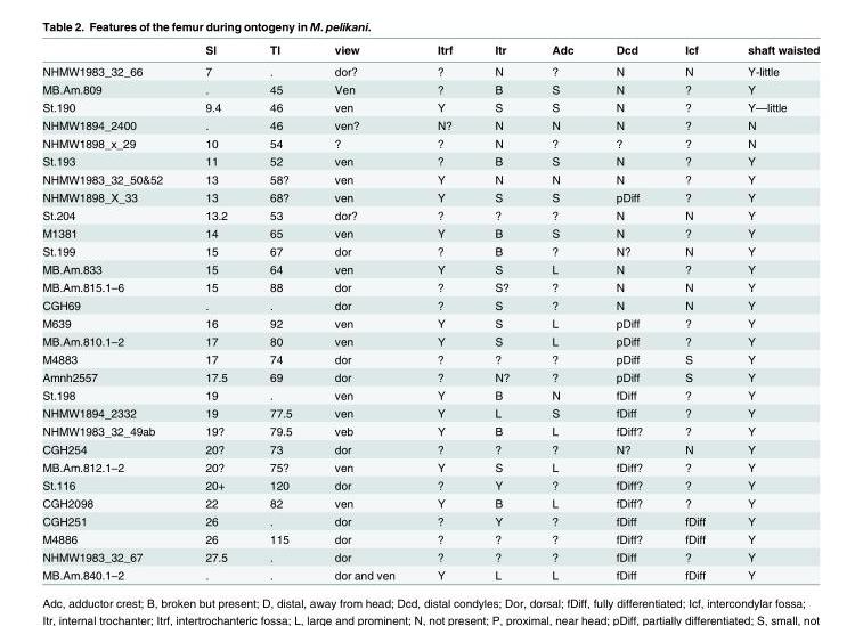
<table><thead><tr><td></td><td>Sl</td><td>Tl</td><td>view</td><td>Itrf</td><td>Itr</td><td>Adc</td><td>Dcd</td><td>Icf</td><td>shaft waisted</td></tr></thead><tbody><tr><td>NHMW1983_32_66</td><td>7</td><td>.</td><td>dor?</td><td>?</td><td>N</td><td>?</td><td>N</td><td>N</td><td>Y-little</td></tr><tr><td>MB.Am.809</td><td>.</td><td>45</td><td>Ven</td><td>?</td><td>B</td><td>S</td><td>N</td><td>?</td><td>Y</td></tr><tr><td>St.190</td><td>9.4</td><td>46</td><td>ven</td><td>Y</td><td>S</td><td>S</td><td>N</td><td>?</td><td>Y—little</td></tr><tr><td>NHMW1894_2400</td><td>.</td><td>46</td><td>ven?</td><td>N?</td><td>N</td><td>N</td><td>N</td><td>?</td><td>N</td></tr><tr><td>NHMW1898_x_29</td><td>10</td><td>54</td><td>?</td><td>?</td><td>N</td><td>?</td><td>?</td><td>?</td><td>N</td></tr><tr><td>St.193</td><td>11</td><td>52</td><td>ven</td><td>?</td><td>B</td><td>S</td><td>N</td><td>?</td><td>Y</td></tr><tr><td>NHMW1983_32_50&amp;52</td><td>13</td><td>58?</td><td>ven</td><td>Y</td><td>N</td><td>N</td><td>N</td><td>?</td><td>Y</td></tr><tr><td>NHMW1898_X_33</td><td>13</td><td>68?</td><td>ven</td><td>Y</td><td>S</td><td>S</td><td>pDiff</td><td>?</td><td>Y</td></tr><tr><td>St.204</td><td>13.2</td><td>53</td><td>dor?</td><td>?</td><td>?</td><td>?</td><td>N</td><td>N</td><td>Y</td></tr><tr><td>M1381</td><td>14</td><td>65</td><td>ven</td><td>Y</td><td>B</td><td>S</td><td>N</td><td>?</td><td>Y</td></tr><tr><td>St.199</td><td>15</td><td>67</td><td>dor</td><td>?</td><td>B</td><td>?</td><td>N?</td><td>N</td><td>Y</td></tr><tr><td>MB.Am.833</td><td>15</td><td>64</td><td>ven</td><td>Y</td><td>S</td><td>L</td><td>N</td><td>?</td><td>Y</td></tr><tr><td>MB.Am.815.1–6</td><td>15</td><td>88</td><td>dor</td><td>?</td><td>S?</td><td>?</td><td>N</td><td>N</td><td>Y</td></tr><tr><td>CGH69</td><td>.</td><td>.</td><td>dor</td><td>?</td><td>S</td><td>?</td><td>N</td><td>N</td><td>Y</td></tr><tr><td>M639</td><td>16</td><td>92</td><td>ven</td><td>Y</td><td>S</td><td>L</td><td>pDiff</td><td>?</td><td>Y</td></tr><tr><td>MB.Am.810.1–2</td><td>17</td><td>80</td><td>ven</td><td>Y</td><td>S</td><td>L</td><td>pDiff</td><td>?</td><td>Y</td></tr><tr><td>M4883</td><td>17</td><td>74</td><td>dor</td><td>?</td><td>?</td><td>?</td><td>pDiff</td><td>S</td><td>Y</td></tr><tr><td>Amnh2557</td><td>17.5</td><td>69</td><td>dor</td><td>?</td><td>N?</td><td>?</td><td>pDiff</td><td>S</td><td>Y</td></tr><tr><td>St.198</td><td>19</td><td>.</td><td>ven</td><td>Y</td><td>B</td><td>N</td><td>fDiff</td><td>?</td><td>Y</td></tr><tr><td>NHMW1894_2332</td><td>19</td><td>77.5</td><td>ven</td><td>Y</td><td>L</td><td>S</td><td>fDiff</td><td>?</td><td>Y</td></tr><tr><td>NHMW1983_32_49ab</td><td>19?</td><td>79.5</td><td>veb</td><td>Y</td><td>B</td><td>L</td><td>fDiff?</td><td>?</td><td>Y</td></tr><tr><td>CGH254</td><td>20?</td><td>73</td><td>dor</td><td>?</td><td>?</td><td>?</td><td>N?</td><td>N</td><td>Y</td></tr><tr><td>MB.Am.812.1–2</td><td>20?</td><td>75?</td><td>ven</td><td>Y</td><td>S</td><td>L</td><td>fDiff?</td><td>?</td><td>Y</td></tr><tr><td>St.116</td><td>20+</td><td>120</td><td>dor</td><td>?</td><td>Y</td><td>?</td><td>fDiff?</td><td>?</td><td>Y</td></tr><tr><td>CGH2098</td><td>22</td><td>82</td><td>ven</td><td>Y</td><td>B</td><td>L</td><td>fDiff?</td><td>?</td><td>Y</td></tr><tr><td>CGH251</td><td>26</td><td>.</td><td>dor</td><td>?</td><td>Y</td><td>?</td><td>fDiff</td><td>fDiff</td><td>Y</td></tr><tr><td>M4886</td><td>26</td><td>115</td><td>dor</td><td>?</td><td>?</td><td>?</td><td>fDiff?</td><td>fDiff</td><td>Y</td></tr><tr><td>NHMW1983_32_67</td><td>27.5</td><td>.</td><td>dor</td><td>?</td><td>?</td><td>?</td><td>fDiff</td><td>?</td><td>Y</td></tr><tr><td>MB.Am.840.1–2</td><td>.</td><td>.</td><td>dor and ven</td><td>Y</td><td>L</td><td>L</td><td>fDiff</td><td>fDiff</td><td>Y</td></tr></tbody></table>